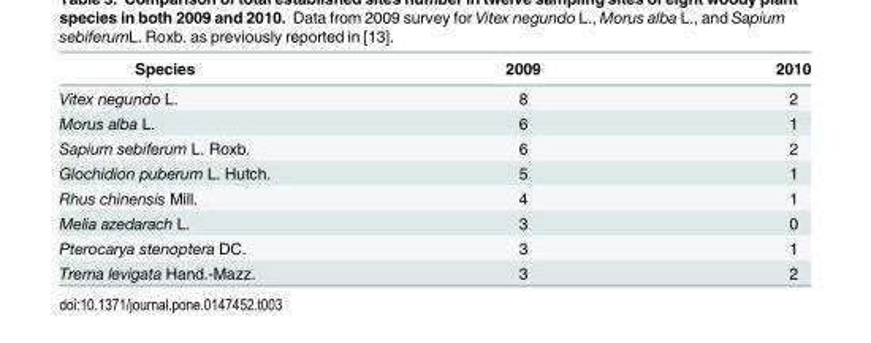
<table><thead><tr><td>Species</td><td>2009</td><td>2010</td></tr></thead><tbody><tr><td>Vitex negundo L.</td><td>8</td><td>2</td></tr><tr><td>Morus alba L.</td><td>6</td><td>1</td></tr><tr><td>Sapium sebiferum L. Roxb.</td><td>6</td><td>2</td></tr><tr><td>Glochidion puberum L. Hutch.</td><td>5</td><td>1</td></tr><tr><td>Rhus chinensis Mill.</td><td>4</td><td>1</td></tr><tr><td>Melia azedarach L.</td><td>3</td><td>0</td></tr><tr><td>Pterocarya stenoptera DC.</td><td>3</td><td>1</td></tr><tr><td>Trema levigata Hand.-Mazz.</td><td>3</td><td>2</td></tr></tbody></table>